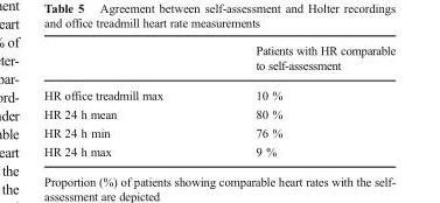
<table><thead><tr><td></td><td>Patients with HR comparable to self-assessment</td></tr></thead><tbody><tr><td>HR office treadmill max</td><td>10 %</td></tr><tr><td>HR 24 h mean</td><td>80 %</td></tr><tr><td>HR 24 h min</td><td>76 %</td></tr><tr><td>HR 24 h max</td><td>9 %</td></tr></tbody></table>